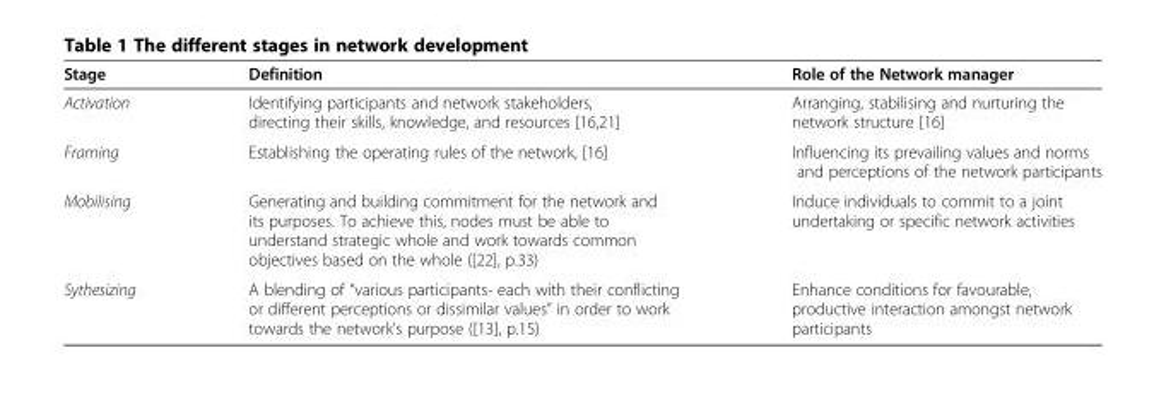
<table><thead><tr><td>Stage</td><td>Definition</td><td>Role of the Network manager</td></tr></thead><tbody><tr><td>Activation</td><td>Identifying participants and network stakeholders, directing their skills, knowledge, and resources [16,21]</td><td>Arranging, stabilising and nurturing the network structure [16]</td></tr><tr><td>Framing</td><td>Establishing the operating rules of the network, [16]</td><td>Influencing its prevailing values and norms and perceptions of the network participants</td></tr><tr><td>Mobilising</td><td>Generating and building commitment for the network and its purposes. To achieve this, nodes must be able to understand strategic whole and work towards common objectives based on the whole ([22], p.33)</td><td>Induce individuals to commit to a joint undertaking or specific network activities</td></tr><tr><td>Sythesizing</td><td>A blending of “various participants- each with their conflicting or different perceptions or dissimilar values” in order to work towards the network’s purpose ([13], p.15)</td><td>Enhance conditions for favourable, productive interaction amongst network participants</td></tr></tbody></table>